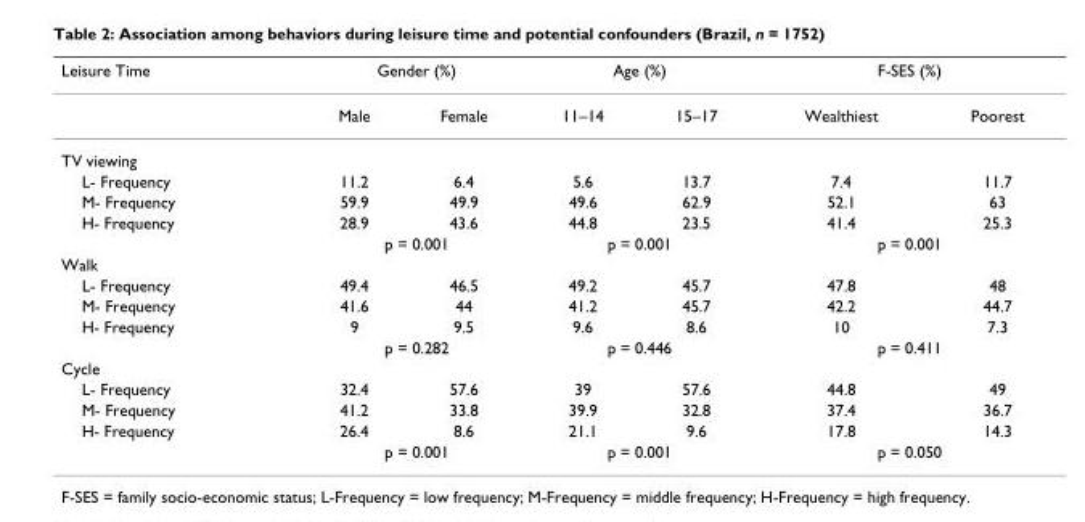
<table><thead><tr><td rowspan="2">Leisure Time</td><td colspan="2">Gender (%)</td><td colspan="2">Age (%)</td><td colspan="2">F-SES (%)</td></tr><tr><td>Male</td><td>Female</td><td>11–14</td><td>15–17</td><td>Wealthiest</td><td>Poorest</td></tr></thead><tbody><tr><td colspan="7">TV viewing</td></tr><tr><td>L- Frequency</td><td>11.2</td><td>6.4</td><td>5.6</td><td>13.7</td><td>7.4</td><td>11.7</td></tr><tr><td>M- Frequency</td><td>59.9</td><td>49.9</td><td>49.6</td><td>62.9</td><td>52.1</td><td>63</td></tr><tr><td rowspan="2">H- Frequency</td><td>28.9</td><td>43.6</td><td>44.8</td><td>23.5</td><td>41.4</td><td>25.3</td></tr><tr><td colspan="2">p = 0.001</td><td colspan="2">p = 0.001</td><td colspan="2">p = 0.001</td></tr><tr><td colspan="7">Walk</td></tr><tr><td>L- Frequency</td><td>49.4</td><td>46.5</td><td>49.2</td><td>45.7</td><td>47.8</td><td>48</td></tr><tr><td>M- Frequency</td><td>41.6</td><td>44</td><td>41.2</td><td>45.7</td><td>42.2</td><td>44.7</td></tr><tr><td rowspan="2">H- Frequency</td><td>9</td><td>9.5</td><td>9.6</td><td>8.6</td><td>10</td><td>7.3</td></tr><tr><td colspan="2">p = 0.282</td><td colspan="2">p = 0.446</td><td colspan="2">p = 0.411</td></tr><tr><td colspan="7">Cycle</td></tr><tr><td>L- Frequency</td><td>32.4</td><td>57.6</td><td>39</td><td>57.6</td><td>44.8</td><td>49</td></tr><tr><td>M- Frequency</td><td>41.2</td><td>33.8</td><td>39.9</td><td>32.8</td><td>37.4</td><td>36.7</td></tr><tr><td rowspan="2">H- Frequency</td><td>26.4</td><td>8.6</td><td>21.1</td><td>9.6</td><td>17.8</td><td>14.3</td></tr><tr><td colspan="2">p = 0.001</td><td colspan="2">p = 0.001</td><td colspan="2">p = 0.050</td></tr></tbody></table>